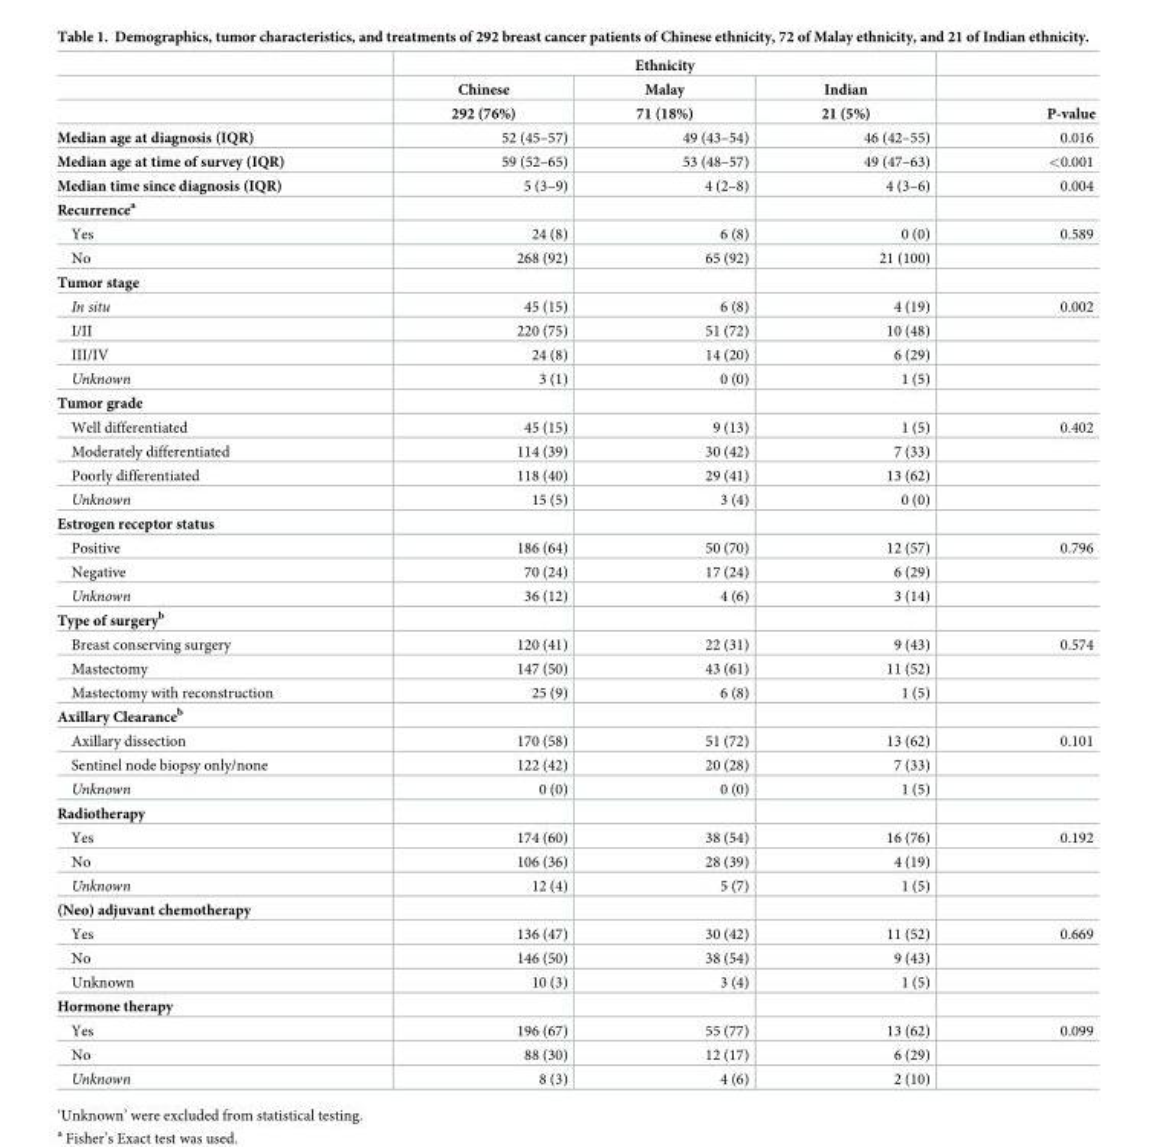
<table><thead><tr><td rowspan="3"></td><td colspan="3">Ethnicity</td><td rowspan="3">P-value</td></tr><tr><td rowspan="2">Chinese 292 (76%)</td><td rowspan="2">Malay 71 (18%)</td><td rowspan="2">Indian 21 (5%)</td></tr><tr></tr></thead><tbody><tr><td>Median age at diagnosis (IQR)</td><td>52 (45–57)</td><td>49 (43–54)</td><td>46 (42–55)</td><td>0.016</td></tr><tr><td>Median age at time of survey (IQR)</td><td>59 (52–65)</td><td>53 (48–57)</td><td>49 (47–63)</td><td>&lt;0.001</td></tr><tr><td>Median time since diagnosis (IQR)</td><td>5 (3–9)</td><td>4 (2–8)</td><td>4 (3–6)</td><td>0.004</td></tr><tr><td colspan="5">Recurrence<sup>a</sup></td></tr><tr><td>Yes</td><td>24 (8)</td><td>6 (8)</td><td>0 (0)</td><td>0.589</td></tr><tr><td>No</td><td>268 (92)</td><td>65 (92)</td><td>21 (100)</td><td></td></tr><tr><td colspan="5">Tumor stage</td></tr><tr><td>In situ</td><td>45 (15)</td><td>6 (8)</td><td>4 (19)</td><td>0.002</td></tr><tr><td>I/II</td><td>220 (75)</td><td>51 (72)</td><td>10 (48)</td><td></td></tr><tr><td>III/IV</td><td>24 (8)</td><td>14 (20)</td><td>6 (29)</td><td></td></tr><tr><td>Unknown</td><td>3 (1)</td><td>0 (0)</td><td>1 (5)</td><td></td></tr><tr><td colspan="5">Tumor grade</td></tr><tr><td>Well differentiated</td><td>45 (15)</td><td>9 (13)</td><td>1 (5)</td><td>0.402</td></tr><tr><td>Moderately differentiated</td><td>114 (39)</td><td>30 (42)</td><td>7 (33)</td><td></td></tr><tr><td>Poorly differentiated</td><td>118 (40)</td><td>29 (41)</td><td>13 (62)</td><td></td></tr><tr><td>Unknown</td><td>15 (5)</td><td>3 (4)</td><td>0 (0)</td><td></td></tr><tr><td colspan="5">Estrogen receptor status</td></tr><tr><td>Positive</td><td>186 (64)</td><td>50 (70)</td><td>12 (57)</td><td>0.796</td></tr><tr><td>Negative</td><td>70 (24)</td><td>17 (24)</td><td>6 (29)</td><td></td></tr><tr><td>Unknown</td><td>36 (12)</td><td>4 (6)</td><td>3 (14)</td><td></td></tr><tr><td colspan="5">Type of surgery<sup>b</sup></td></tr><tr><td>Breast conserving surgery</td><td>120 (41)</td><td>22 (31)</td><td>9 (43)</td><td>0.574</td></tr><tr><td>Mastectomy</td><td>147 (50)</td><td>43 (61)</td><td>11 (52)</td><td></td></tr><tr><td>Mastectomy with reconstruction</td><td>25 (9)</td><td>6 (8)</td><td>1 (5)</td><td></td></tr><tr><td colspan="5">Axillary Clearance<sup>b</sup></td></tr><tr><td>Axillary dissection</td><td>170 (58)</td><td>51 (72)</td><td>13 (62)</td><td>0.101</td></tr><tr><td>Sentinel node biopsy only/none</td><td>122 (42)</td><td>20 (28)</td><td>7 (33)</td><td></td></tr><tr><td>Unknown</td><td>0 (0)</td><td>0 (0)</td><td>1 (5)</td><td></td></tr><tr><td colspan="5">Radiotherapy</td></tr><tr><td>Yes</td><td>174 (60)</td><td>38 (54)</td><td>16 (76)</td><td>0.192</td></tr><tr><td>No</td><td>106 (36)</td><td>28 (39)</td><td>4 (19)</td><td></td></tr><tr><td>Unknown</td><td>12 (4)</td><td>5 (7)</td><td>1 (5)</td><td></td></tr><tr><td colspan="5">(Neo) adjuvant chemotherapy</td></tr><tr><td>Yes</td><td>136 (47)</td><td>30 (42)</td><td>11 (52)</td><td>0.669</td></tr><tr><td>No</td><td>146 (50)</td><td>38 (54)</td><td>9 (43)</td><td></td></tr><tr><td>Unknown</td><td>10 (3)</td><td>3 (4)</td><td>1 (5)</td><td></td></tr><tr><td colspan="5">Hormone therapy</td></tr><tr><td>Yes</td><td>196 (67)</td><td>55 (77)</td><td>13 (62)</td><td>0.099</td></tr><tr><td>No</td><td>88 (30)</td><td>12 (17)</td><td>6 (29)</td><td></td></tr><tr><td>Unknown</td><td>8 (3)</td><td>4 (6)</td><td>2 (10)</td><td></td></tr></tbody></table>